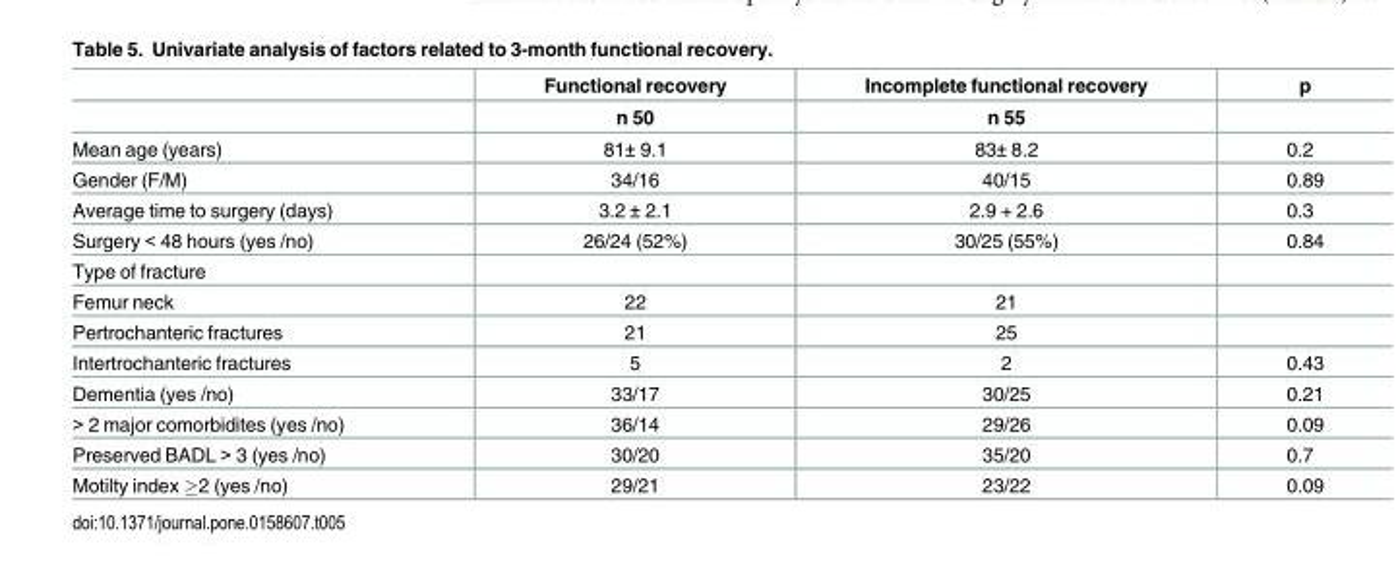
<table><thead><tr><td rowspan="2"></td><td rowspan="2">Functional recovery n 50</td><td rowspan="2">Incomplete functional recovery n 55</td><td rowspan="2">p</td></tr><tr></tr></thead><tbody><tr><td>Mean age (years)</td><td>81± 9.1</td><td>83± 8.2</td><td>0.2</td></tr><tr><td>Gender (F/M)</td><td>34/16</td><td>40/15</td><td>0.89</td></tr><tr><td>Average time to surgery (days)</td><td>3.2 ± 2.1</td><td>2.9 + 2.6</td><td>0.3</td></tr><tr><td>Surgery &lt; 48 hours (yes /no)</td><td>26/24 (52%)</td><td>30/25 (55%)</td><td>0.84</td></tr><tr><td colspan="4">Type of fracture</td></tr><tr><td>Femur neck</td><td>22</td><td>21</td><td></td></tr><tr><td>Pertrochanteric fractures</td><td>21</td><td>25</td><td></td></tr><tr><td>Intertrochanteric fractures</td><td>5</td><td>2</td><td>0.43</td></tr><tr><td>Dementia (yes /no)</td><td>33/17</td><td>30/25</td><td>0.21</td></tr><tr><td>&gt; 2 major comorbidites (yes /no)</td><td>36/14</td><td>29/26</td><td>0.09</td></tr><tr><td>Preserved BADL &gt; 3 (yes /no)</td><td>30/20</td><td>35/20</td><td>0.7</td></tr><tr><td>Motilty index ≥2 (yes /no)</td><td>29/21</td><td>23/22</td><td>0.09</td></tr></tbody></table>